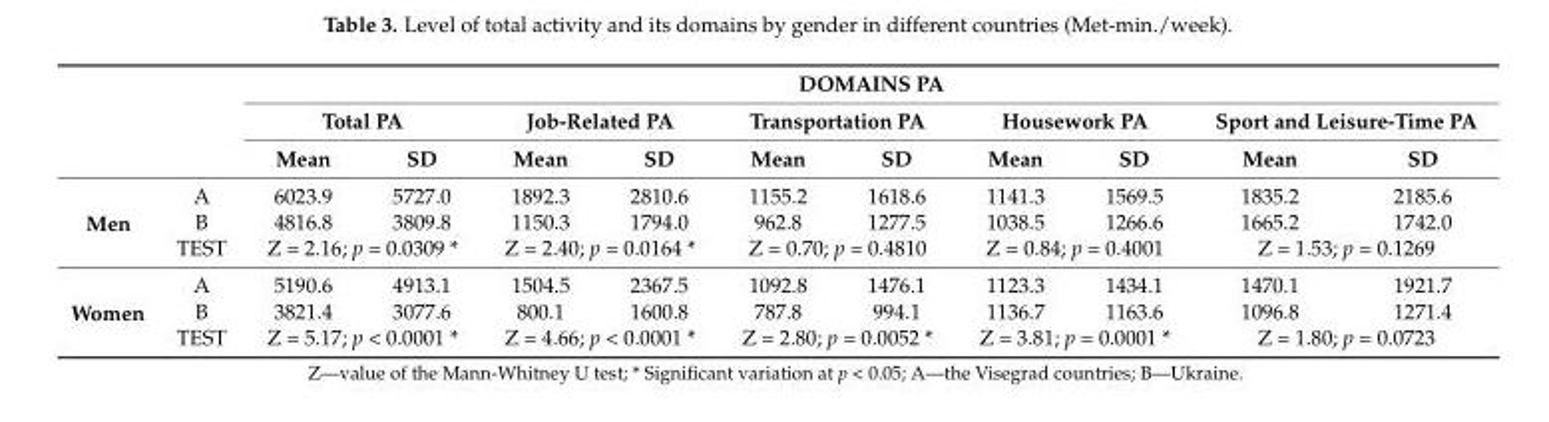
<table><thead><tr><td rowspan="3"></td><td rowspan="3"></td><td colspan="10">DOMAINS PA</td></tr><tr><td colspan="2">Total PA</td><td colspan="2">Job-Related PA</td><td colspan="2">Transportation PA</td><td colspan="2">Housework PA</td><td colspan="2">Sport and Leisure-Time PA</td></tr><tr><td>Mean</td><td>SD</td><td>Mean</td><td>SD</td><td>Mean</td><td>SD</td><td>Mean</td><td>SD</td><td>Mean</td><td>SD</td></tr></thead><tbody><tr><td rowspan="3">Men</td><td>A</td><td>6023.9</td><td>5727.0</td><td>1892.3</td><td>2810.6</td><td>1155.2</td><td>1618.6</td><td>1141.3</td><td>1569.5</td><td>1835.2</td><td>2185.6</td></tr><tr><td>B</td><td>4816.8</td><td>3809.8</td><td>1150.3</td><td>1794.0</td><td>962.8</td><td>1277.5</td><td>1038.5</td><td>1266.6</td><td>1665.2</td><td>1742.0</td></tr><tr><td>TEST</td><td colspan="2">Z = 2.16; p = 0.0309 *</td><td colspan="2">Z = 2.40; p = 0.0164 *</td><td colspan="2">Z = 0.70; p = 0.4810</td><td colspan="2">Z = 0.84; p = 0.4001</td><td colspan="2">Z = 1.53; p = 0.1269</td></tr><tr><td rowspan="3">Women</td><td>A</td><td>5190.6</td><td>4913.1</td><td>1504.5</td><td>2367.5</td><td>1092.8</td><td>1476.1</td><td>1123.3</td><td>1434.1</td><td>1470.1</td><td>1921.7</td></tr><tr><td>B</td><td>3821.4</td><td>3077.6</td><td>800.1</td><td>1600.8</td><td>787.8</td><td>994.1</td><td>1136.7</td><td>1163.6</td><td>1096.8</td><td>1271.4</td></tr><tr><td>TEST</td><td colspan="2">Z = 5.17; p &lt; 0.0001 *</td><td colspan="2">Z = 4.66; p &lt; 0.0001 *</td><td colspan="2">Z = 2.80; p = 0.0052 *</td><td colspan="2">Z = 3.81; p = 0.0001 *</td><td colspan="2">Z = 1.80; p = 0.0723</td></tr></tbody></table>